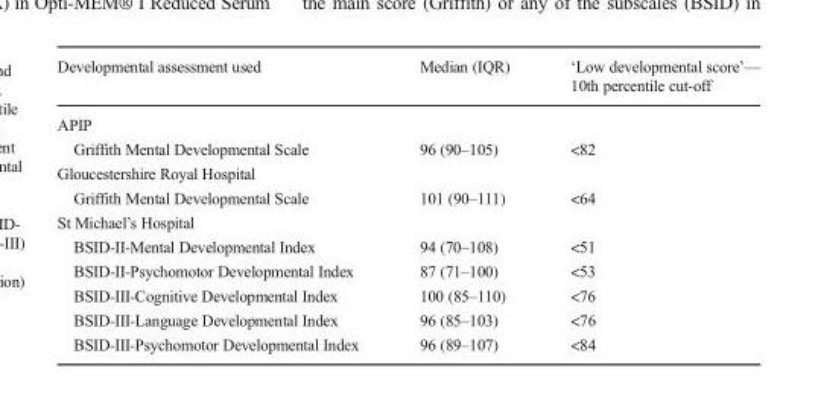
<table><thead><tr><td>Developmental assessment used</td><td>Median (IQR)</td><td>‘Low developmental score’— 10th percentile cut-off</td></tr></thead><tbody><tr><td colspan="3">APIP</td></tr><tr><td>Griffith Mental Developmental Scale</td><td>96 (90–105)</td><td>&lt;82</td></tr><tr><td colspan="3">Gloucestershire Royal Hospital</td></tr><tr><td>Griffith Mental Developmental Scale</td><td>101 (90–111)</td><td>&lt;64</td></tr><tr><td colspan="3">St Michael’s Hospital</td></tr><tr><td>BSID-II-Mental Developmental Index</td><td>94 (70–108)</td><td>&lt;51</td></tr><tr><td>BSID-II-Psychomotor Developmental Index</td><td>87 (71–100)</td><td>&lt;53</td></tr><tr><td>BSID-III-Cognitive Developmental Index</td><td>100 (85–110)</td><td>&lt;76</td></tr><tr><td>BSID-III-Language Developmental Index</td><td>96 (85–103)</td><td>&lt;76</td></tr><tr><td>BSID-III-Psychomotor Developmental Index</td><td>96 (89–107)</td><td>&lt;84</td></tr></tbody></table>